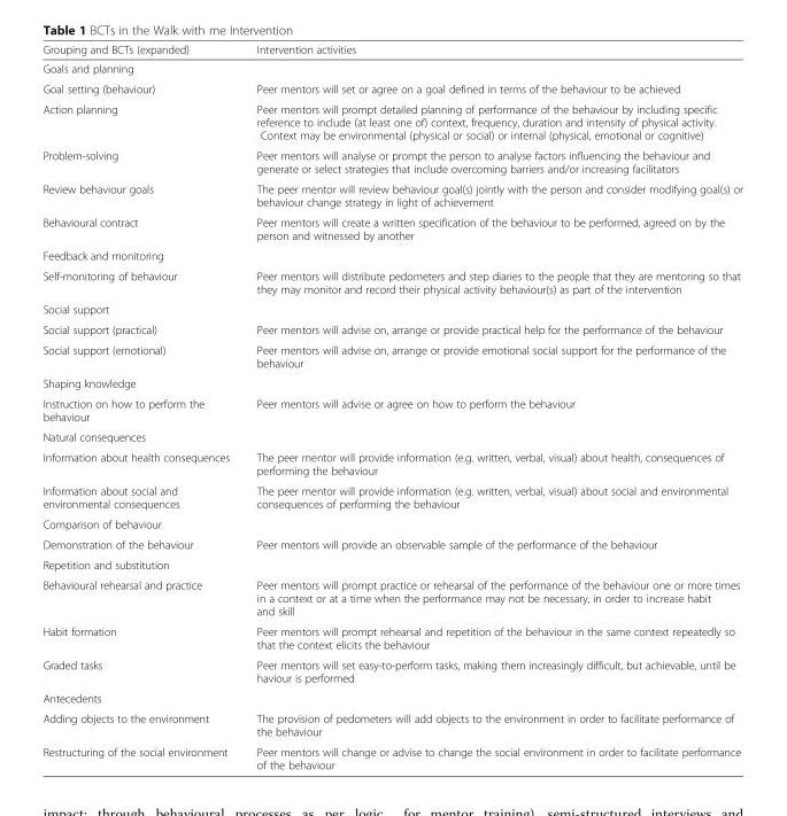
<table><thead><tr><td>Grouping and BCTs (expanded)</td><td>Intervention activities</td></tr></thead><tbody><tr><td colspan="2">Goals and planning</td></tr><tr><td>Goal setting (behaviour)</td><td>Peer mentors will set or agree on a goal defined in terms of the behaviour to be achieved</td></tr><tr><td>Action planning</td><td>Peer mentors will prompt detailed planning of performance of the behaviour by including specific reference to include (at least one of) context, frequency, duration and intensity of physical activity. Context may be environmental (physical or social) or internal (physical, emotional or cognitive)</td></tr><tr><td>Problem-solving</td><td>Peer mentors will analyse or prompt the person to analyse factors influencing the behaviour and generate or select strategies that include overcoming barriers and/or increasing facilitators</td></tr><tr><td>Review behaviour goals</td><td>The peer mentor will review behaviour goal(s) jointly with the person and consider modifying goal(s) or behaviour change strategy in light of achievement</td></tr><tr><td>Behavioural contract</td><td>Peer mentors will create a written specification of the behaviour to be performed, agreed on by the person and witnessed by another</td></tr><tr><td colspan="2">Feedback and monitoring</td></tr><tr><td>Self-monitoring of behaviour</td><td>Peer mentors will distribute pedometers and step diaries to the people that they are mentoring so that they may monitor and record their physical activity behaviour(s) as part of the intervention</td></tr><tr><td colspan="2">Social support</td></tr><tr><td>Social support (practical)</td><td>Peer mentors will advise on, arrange or provide practical help for the performance of the behaviour</td></tr><tr><td>Social support (emotional)</td><td>Peer mentors will advise on, arrange or provide emotional social support for the performance of the behaviour</td></tr><tr><td colspan="2">Shaping knowledge</td></tr><tr><td>Instruction on how to perform the behaviour</td><td>Peer mentors will advise or agree on how to perform the behaviour</td></tr><tr><td colspan="2">Natural consequences</td></tr><tr><td>Information about health consequences</td><td>The peer mentor will provide information (e.g. written, verbal, visual) about health, consequences of performing the behaviour</td></tr><tr><td>Information about social and environmental consequences</td><td>The peer mentor will provide information (e.g. written, verbal, visual) about social and environmental consequences of performing the behaviour</td></tr><tr><td colspan="2">Comparison of behaviour</td></tr><tr><td>Demonstration of the behaviour</td><td>Peer mentors will provide an observable sample of the performance of the behaviour</td></tr><tr><td colspan="2">Repetition and substitution</td></tr><tr><td>Behavioural rehearsal and practice</td><td>Peer mentors will prompt practice or rehearsal of the performance of the behaviour one or more times in a context or at a time when the performance may not be necessary, in order to increase habit and skill</td></tr><tr><td>Habit formation</td><td>Peer mentors will prompt rehearsal and repetition of the behaviour in the same context repeatedly so that the context elicits the behaviour</td></tr><tr><td>Graded tasks</td><td>Peer mentors will set easy-to-perform tasks, making them increasingly difficult, but achievable, until be haviour is performed</td></tr><tr><td colspan="2">Antecedents</td></tr><tr><td>Adding objects to the environment</td><td>The provision of pedometers will add objects to the environment in order to facilitate performance of the behaviour</td></tr><tr><td>Restructuring of the social environment</td><td>Peer mentors will change or advise to change the social environment in order to facilitate performance of the behaviour</td></tr></tbody></table>